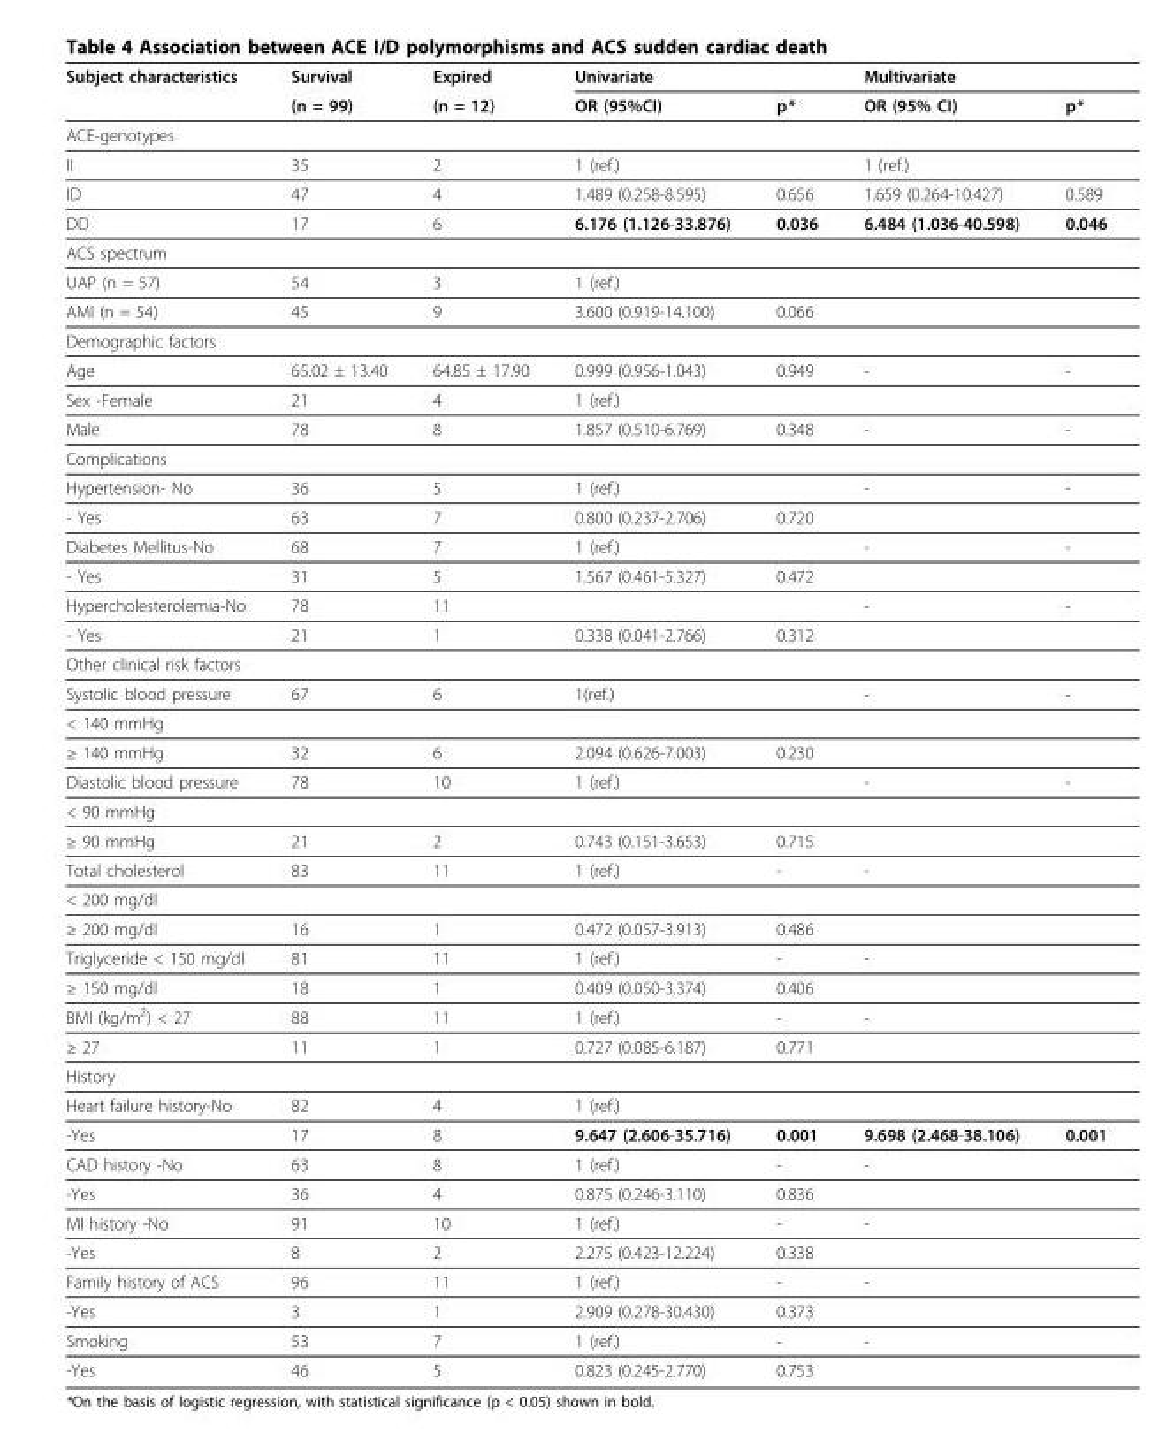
<table><thead><tr><td rowspan="2">Subject characteristics</td><td rowspan="2">Survival (n = 99)</td><td rowspan="2">Expired (n = 12)</td><td rowspan="2">Univariate OR (95%CI)</td><td rowspan="2">p*</td><td rowspan="2">Multivariate OR (95% CI)</td><td rowspan="2">p*</td></tr><tr></tr></thead><tbody><tr><td colspan="7">ACE-genotypes</td></tr><tr><td>II</td><td>35</td><td>2</td><td>1 (ref.)</td><td></td><td>1 (ref.)</td><td></td></tr><tr><td>ID</td><td>47</td><td>4</td><td>1.489 (0.258-8.595)</td><td>0.656</td><td>1.659 (0.264-10.427)</td><td>0.589</td></tr><tr><td>DD</td><td>17</td><td>6</td><td>6.176 (1.126-33.876)</td><td>0.036</td><td>6.484 (1.036-40.598)</td><td>0.046</td></tr><tr><td colspan="7">ACS spectrum</td></tr><tr><td>UAP (n = 57)</td><td>54</td><td>3</td><td>1 (ref.)</td><td></td><td></td><td></td></tr><tr><td>AMI (n = 54)</td><td>45</td><td>9</td><td>3.600 (0.919-14.100)</td><td>0.066</td><td></td><td></td></tr><tr><td colspan="7">Demographic factors</td></tr><tr><td>Age</td><td>65.02 ± 13.40</td><td>64.85 ± 17.90</td><td>0.999 (0.956-1.043)</td><td>0.949</td><td>-</td><td>-</td></tr><tr><td>Sex -Female</td><td>21</td><td>4</td><td>1 (ref.)</td><td></td><td></td><td></td></tr><tr><td>Male</td><td>78</td><td>8</td><td>1.857 (0.510-6.769)</td><td>0.348</td><td>-</td><td>-</td></tr><tr><td colspan="7">Complications</td></tr><tr><td>Hypertension- No</td><td>36</td><td>5</td><td>1 (ref.)</td><td></td><td>-</td><td>-</td></tr><tr><td>- Yes</td><td>63</td><td>7</td><td>0.800 (0.237-2.706)</td><td>0.720</td><td></td><td></td></tr><tr><td>Diabetes Mellitus-No</td><td>68</td><td>7</td><td>1 (ref.)</td><td></td><td>-</td><td>-</td></tr><tr><td>- Yes</td><td>31</td><td>5</td><td>1.567 (0.461-5.327)</td><td>0.472</td><td></td><td></td></tr><tr><td>Hypercholesterolemia-No</td><td>78</td><td>11</td><td></td><td></td><td>-</td><td>-</td></tr><tr><td>- Yes</td><td>21</td><td>1</td><td>0.338 (0.041-2.766)</td><td>0.312</td><td></td><td></td></tr><tr><td colspan="7">Other clinical risk factors</td></tr><tr><td>Systolic blood pressure</td><td>67</td><td>6</td><td>1(ref.)</td><td></td><td>-</td><td>-</td></tr><tr><td colspan="7">&lt; 140 mmHg</td></tr><tr><td>≥ 140 mmHg</td><td>32</td><td>6</td><td>2.094 (0.626-7.003)</td><td>0.230</td><td></td><td></td></tr><tr><td>Diastolic blood pressure</td><td>78</td><td>10</td><td>1 (ref.)</td><td></td><td>-</td><td>-</td></tr><tr><td colspan="7">&lt; 90 mmHg</td></tr><tr><td>≥ 90 mmHg</td><td>21</td><td>2</td><td>0.743 (0.151-3.653)</td><td>0.715</td><td></td><td></td></tr><tr><td>Total cholesterol</td><td>83</td><td>11</td><td>1 (ref.)</td><td>-</td><td>-</td><td></td></tr><tr><td colspan="7">&lt; 200 mg/dl</td></tr><tr><td>≥ 200 mg/dl</td><td>16</td><td>1</td><td>0.472 (0.057-3.913)</td><td>0.486</td><td></td><td></td></tr><tr><td>Triglyceride &lt; 150 mg/dl</td><td>81</td><td>11</td><td>1 (ref.)</td><td>-</td><td>-</td><td></td></tr><tr><td>≥ 150 mg/dl</td><td>18</td><td>1</td><td>0.409 (0.050-3.374)</td><td>0.406</td><td></td><td></td></tr><tr><td>BMI (kg/m<sup>2</sup>) &lt; 27</td><td>88</td><td>11</td><td>1 (ref.)</td><td>-</td><td>-</td><td></td></tr><tr><td>≥ 27</td><td>11</td><td>1</td><td>0.727 (0.085-6.187)</td><td>0.771</td><td></td><td></td></tr><tr><td colspan="7">History</td></tr><tr><td>Heart failure history-No</td><td>82</td><td>4</td><td>1 (ref.)</td><td></td><td></td><td></td></tr><tr><td>-Yes</td><td>17</td><td>8</td><td>9.647 (2.606-35.716)</td><td>0.001</td><td>9.698 (2.468-38.106)</td><td>0.001</td></tr><tr><td>CAD history -No</td><td>63</td><td>8</td><td>1 (ref.)</td><td>-</td><td>-</td><td></td></tr><tr><td>-Yes</td><td>36</td><td>4</td><td>0.875 (0.246-3.110)</td><td>0.836</td><td></td><td></td></tr><tr><td>MI history -No</td><td>91</td><td>10</td><td>1 (ref.)</td><td>-</td><td>-</td><td></td></tr><tr><td>-Yes</td><td>8</td><td>2</td><td>2.275 (0.423-12.224)</td><td>0.338</td><td></td><td></td></tr><tr><td>Family history of ACS</td><td>96</td><td>11</td><td>1 (ref.)</td><td>-</td><td>-</td><td></td></tr><tr><td>-Yes</td><td>3</td><td>1</td><td>2.909 (0.278-30.430)</td><td>0.373</td><td></td><td></td></tr><tr><td>Smoking</td><td>53</td><td>7</td><td>1 (ref.)</td><td>-</td><td>-</td><td></td></tr><tr><td>-Yes</td><td>46</td><td>5</td><td>0.823 (0.245-2.770)</td><td>0.753</td><td></td><td></td></tr></tbody></table>